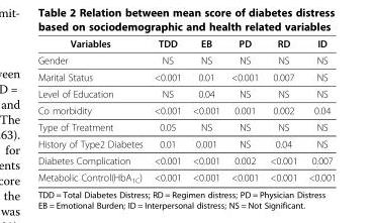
<table><thead><tr><td>Variables</td><td>TDD</td><td>EB</td><td>PD</td><td>RD</td><td>ID</td></tr></thead><tbody><tr><td>Gender</td><td>NS</td><td>NS</td><td>NS</td><td>NS</td><td>NS</td></tr><tr><td>Marital Status</td><td>&lt;0.001</td><td>0.01</td><td>&lt;0.001</td><td>0.007</td><td>NS</td></tr><tr><td>Level of Education</td><td>NS</td><td>0.04</td><td>NS</td><td>NS</td><td>NS</td></tr><tr><td>Co morbidity</td><td>&lt;0.001</td><td>&lt;0.001</td><td>0.001</td><td>0.002</td><td>0.04</td></tr><tr><td>Type of Treatment</td><td>0.05</td><td>NS</td><td>NS</td><td>NS</td><td>NS</td></tr><tr><td>History of Type2 Diabetes</td><td>0.01</td><td>0.001</td><td>NS</td><td>0.04</td><td>NS</td></tr><tr><td>Diabetes Complication</td><td>&lt;0.001</td><td>&lt;0.001</td><td>0.002</td><td>&lt;0.001</td><td>0.007</td></tr><tr><td>Metabolic Control(HbA<sub>1C</sub>)</td><td>&lt;0.001</td><td>&lt;0.001</td><td>&lt;0.001</td><td>&lt;0.001</td><td>&lt;0.001</td></tr></tbody></table>